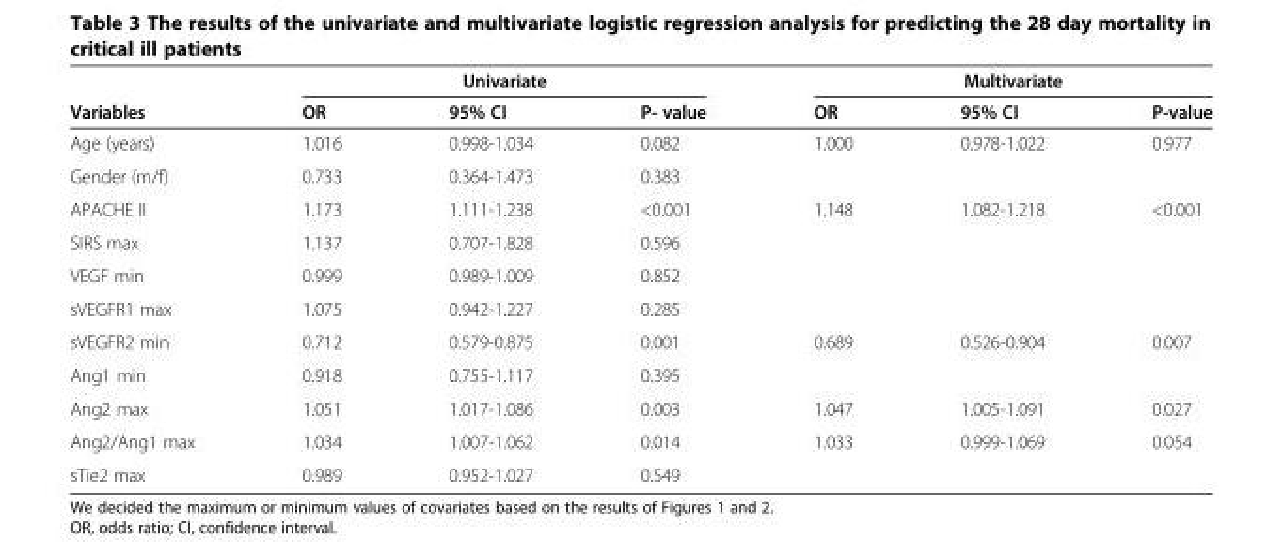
<table><thead><tr><td rowspan="2">Variables</td><td colspan="3">Univariate</td><td colspan="3">Multivariate</td></tr><tr><td>OR</td><td>95% CI</td><td>P- value</td><td>OR</td><td>95% CI</td><td>P-value</td></tr></thead><tbody><tr><td>Age (years)</td><td>1.016</td><td>0.998-1.034</td><td>0.082</td><td>1.000</td><td>0.978-1.022</td><td>0.977</td></tr><tr><td>Gender (m/f)</td><td>0.733</td><td>0.364-1.473</td><td>0.383</td><td></td><td></td><td></td></tr><tr><td>APACHE II</td><td>1.173</td><td>1.111-1.238</td><td>&lt;0.001</td><td>1.148</td><td>1.082-1.218</td><td>&lt;0.001</td></tr><tr><td>SIRS max</td><td>1.137</td><td>0.707-1.828</td><td>0.596</td><td></td><td></td><td></td></tr><tr><td>VEGF min</td><td>0.999</td><td>0.989-1.009</td><td>0.852</td><td></td><td></td><td></td></tr><tr><td>sVEGFR1 max</td><td>1.075</td><td>0.942-1.227</td><td>0.285</td><td></td><td></td><td></td></tr><tr><td>sVEGFR2 min</td><td>0.712</td><td>0.579-0.875</td><td>0.001</td><td>0.689</td><td>0.526-0.904</td><td>0.007</td></tr><tr><td>Ang1 min</td><td>0.918</td><td>0.755-1.117</td><td>0.395</td><td></td><td></td><td></td></tr><tr><td>Ang2 max</td><td>1.051</td><td>1.017-1.086</td><td>0.003</td><td>1.047</td><td>1.005-1.091</td><td>0.027</td></tr><tr><td>Ang2/Ang1 max</td><td>1.034</td><td>1.007-1.062</td><td>0.014</td><td>1.033</td><td>0.999-1.069</td><td>0.054</td></tr><tr><td>sTie2 max</td><td>0.989</td><td>0.952-1.027</td><td>0.549</td><td></td><td></td><td></td></tr></tbody></table>